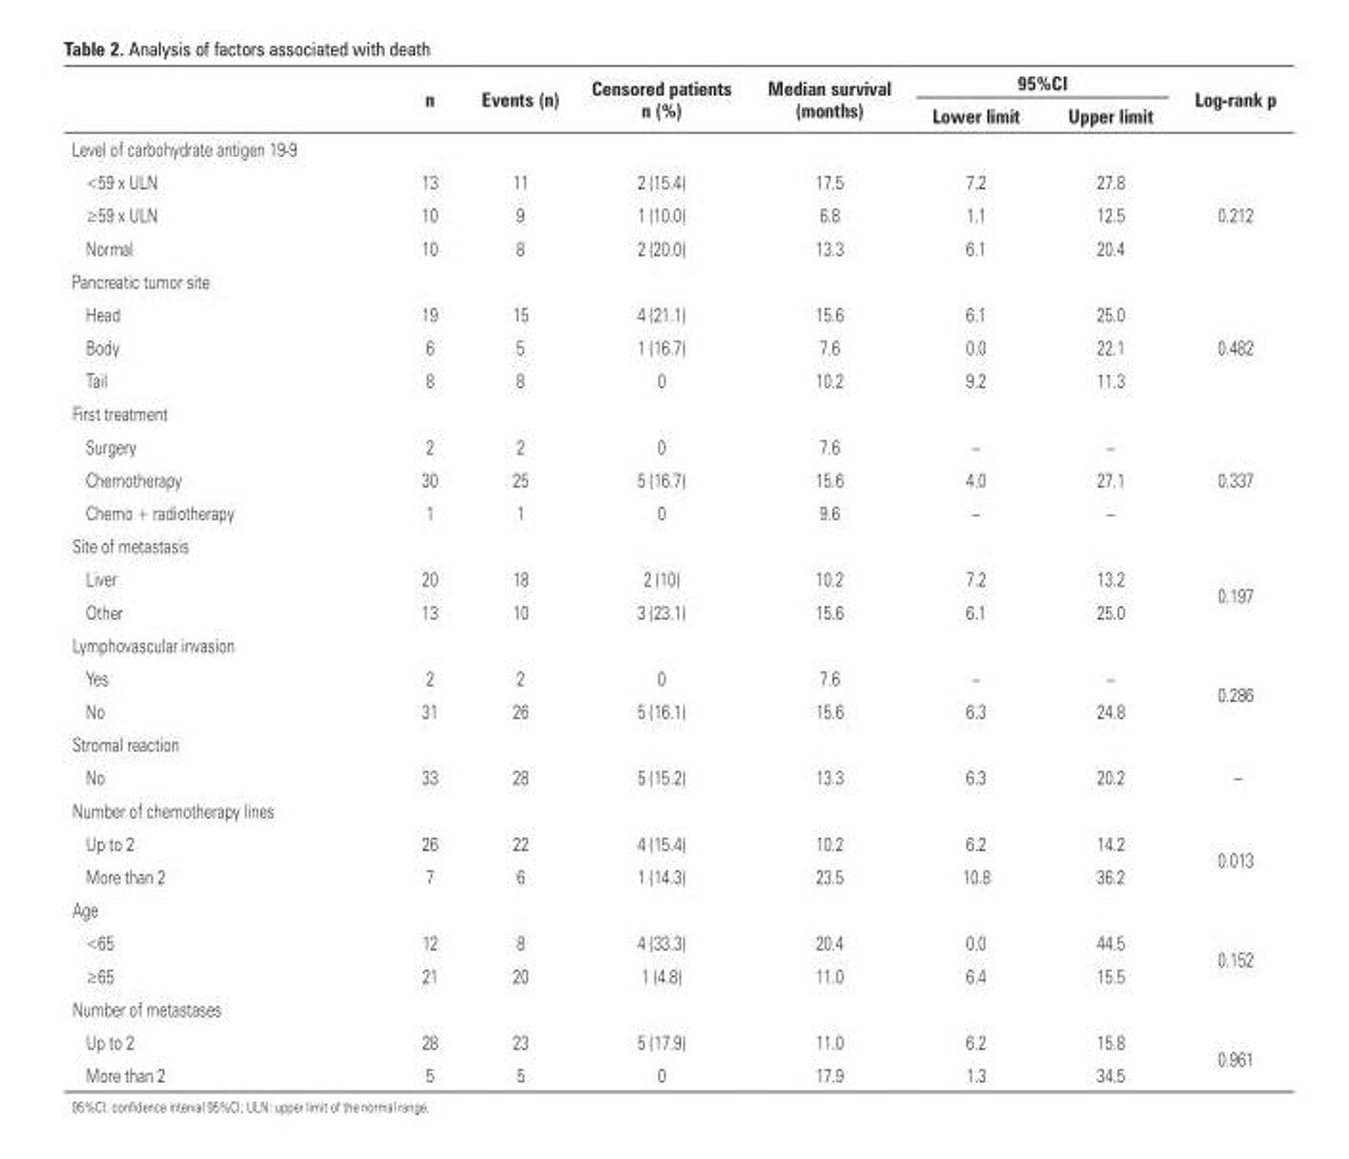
<table><thead><tr><td rowspan="2"></td><td rowspan="2">n</td><td rowspan="2">Events (n)</td><td rowspan="2">Censored patients n (%)</td><td rowspan="2">Median survival (months)</td><td colspan="2">95%CI</td><td rowspan="2">Log-rank p</td></tr><tr><td>Lower limit</td><td>Upper limit</td></tr></thead><tbody><tr><td colspan="8">Level of carbohydrate antigen 19-9</td></tr><tr><td>&lt;59 x ULN</td><td>13</td><td>11</td><td>2 (15.4)</td><td>17.5</td><td>7.2</td><td>27.8</td><td rowspan="3">0.212</td></tr><tr><td>≥59 x ULN</td><td>10</td><td>9</td><td>1 (10.0)</td><td>6.8</td><td>1.1</td><td>12.5</td></tr><tr><td>Normal</td><td>10</td><td>8</td><td>2 (20.0)</td><td>13.3</td><td>6.1</td><td>20.4</td></tr><tr><td colspan="8">Pancreatic tumor site</td></tr><tr><td>Head</td><td>19</td><td>15</td><td>4 (21.1)</td><td>15.6</td><td>6.1</td><td>25.0</td><td rowspan="3">0.482</td></tr><tr><td>Body</td><td>6</td><td>5</td><td>1 (16.7)</td><td>7.6</td><td>0.0</td><td>22.1</td></tr><tr><td>Tail</td><td>8</td><td>8</td><td>0</td><td>10.2</td><td>9.2</td><td>11.3</td></tr><tr><td colspan="8">First treatment</td></tr><tr><td>Surgery</td><td>2</td><td>2</td><td>0</td><td>7.6</td><td>--</td><td>--</td><td rowspan="3">0.337</td></tr><tr><td>Chemotherapy</td><td>30</td><td>25</td><td>5 (16.7)</td><td>15.6</td><td>4.0</td><td>27.1</td></tr><tr><td>Chemo + radiotherapy</td><td>1</td><td>1</td><td>0</td><td>9.6</td><td>--</td><td>--</td></tr><tr><td colspan="8">Site of metastasis</td></tr><tr><td>Liver</td><td>20</td><td>18</td><td>2 (10)</td><td>10.2</td><td>7.2</td><td>13.2</td><td rowspan="2">0.197</td></tr><tr><td>Other</td><td>13</td><td>10</td><td>3 (23.1)</td><td>15.6</td><td>6.1</td><td>25.0</td></tr><tr><td colspan="8">Lymphovascular invasion</td></tr><tr><td>Yes</td><td>2</td><td>2</td><td>0</td><td>7.6</td><td>--</td><td>--</td><td rowspan="2">0.286</td></tr><tr><td>No</td><td>31</td><td>26</td><td>5 (16.1)</td><td>15.6</td><td>6.3</td><td>24.8</td></tr><tr><td colspan="8">Stromal reaction</td></tr><tr><td>No</td><td>33</td><td>28</td><td>5 (15.2)</td><td>13.3</td><td>6.3</td><td>20.2</td><td>--</td></tr><tr><td colspan="8">Number of chemotherapy lines</td></tr><tr><td>Up to 2</td><td>26</td><td>22</td><td>4 (15.4)</td><td>10.2</td><td>6.2</td><td>14.2</td><td rowspan="2">0.013</td></tr><tr><td>More than 2</td><td>7</td><td>6</td><td>1 (14.3)</td><td>23.5</td><td>10.8</td><td>36.2</td></tr><tr><td colspan="8">Age</td></tr><tr><td>&lt;65</td><td>12</td><td>8</td><td>4 (33.3)</td><td>20.4</td><td>0.0</td><td>44.5</td><td rowspan="2">0.152</td></tr><tr><td>≥65</td><td>21</td><td>20</td><td>1 (4.8)</td><td>11.0</td><td>6.4</td><td>15.5</td></tr><tr><td colspan="8">Number of metastases</td></tr><tr><td>Up to 2</td><td>28</td><td>23</td><td>5 (17.9)</td><td>11.0</td><td>6.2</td><td>15.8</td><td rowspan="2">0.961</td></tr><tr><td>More than 2</td><td>5</td><td>5</td><td>0</td><td>17.9</td><td>1.3</td><td>34.5</td></tr></tbody></table>